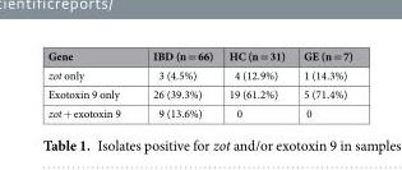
<table><thead><tr><td>Gene</td><td>IBD (n = 66)</td><td>HC (n = 31)</td><td>GE (n = 7)</td></tr></thead><tbody><tr><td>zot only</td><td>3 (4.5%)</td><td>4 (12.9%)</td><td>1 (14.3%)</td></tr><tr><td>Exotoxin 9 only</td><td>26 (39.3%)</td><td>19 (61.2%)</td><td>5 (71.4%)</td></tr><tr><td>zot + exotoxin 9</td><td>9 (13.6%)</td><td>0</td><td>0</td></tr></tbody></table>